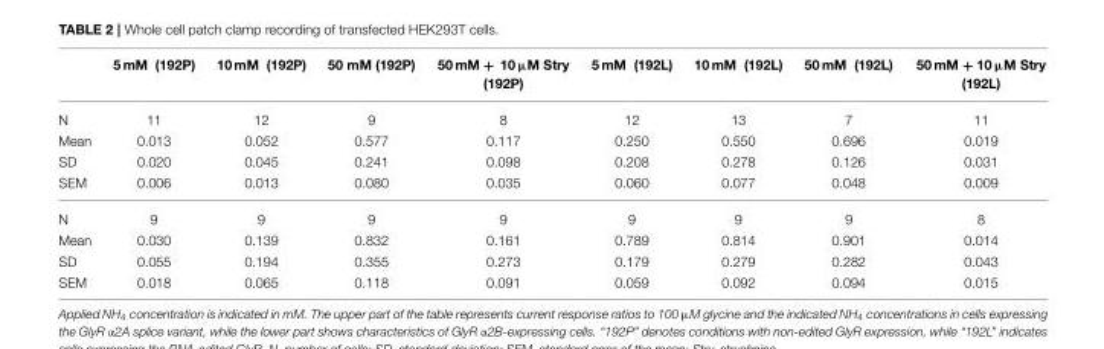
<table><thead><tr><td></td><td>5 mM (192P)</td><td>10 mM (192P)</td><td>50 mM (192P)</td><td>50 mM + 10 µM Stry (192P)</td><td>5 mM (192L)</td><td>10 mM (192L)</td><td>50 mM (192L)</td><td>50 mM + 10 µM Stry (192L)</td></tr></thead><tbody><tr><td>N</td><td>11</td><td>12</td><td>9</td><td>8</td><td>12</td><td>13</td><td>7</td><td>11</td></tr><tr><td>Mean</td><td>0.013</td><td>0.052</td><td>0.577</td><td>0.117</td><td>0.250</td><td>0.550</td><td>0.696</td><td>0.019</td></tr><tr><td>SD</td><td>0.020</td><td>0.045</td><td>0.241</td><td>0.098</td><td>0.208</td><td>0.278</td><td>0.126</td><td>0.031</td></tr><tr><td>SEM</td><td>0.006</td><td>0.013</td><td>0.080</td><td>0.035</td><td>0.060</td><td>0.077</td><td>0.048</td><td>0.009</td></tr><tr><td>N</td><td>9</td><td>9</td><td>9</td><td>9</td><td>9</td><td>9</td><td>9</td><td>8</td></tr><tr><td>Mean</td><td>0.030</td><td>0.139</td><td>0.832</td><td>0.161</td><td>0.789</td><td>0.814</td><td>0.901</td><td>0.014</td></tr><tr><td>SD</td><td>0.055</td><td>0.194</td><td>0.355</td><td>0.273</td><td>0.179</td><td>0.279</td><td>0.282</td><td>0.043</td></tr><tr><td>SEM</td><td>0.018</td><td>0.065</td><td>0.118</td><td>0.091</td><td>0.059</td><td>0.092</td><td>0.094</td><td>0.015</td></tr></tbody></table>